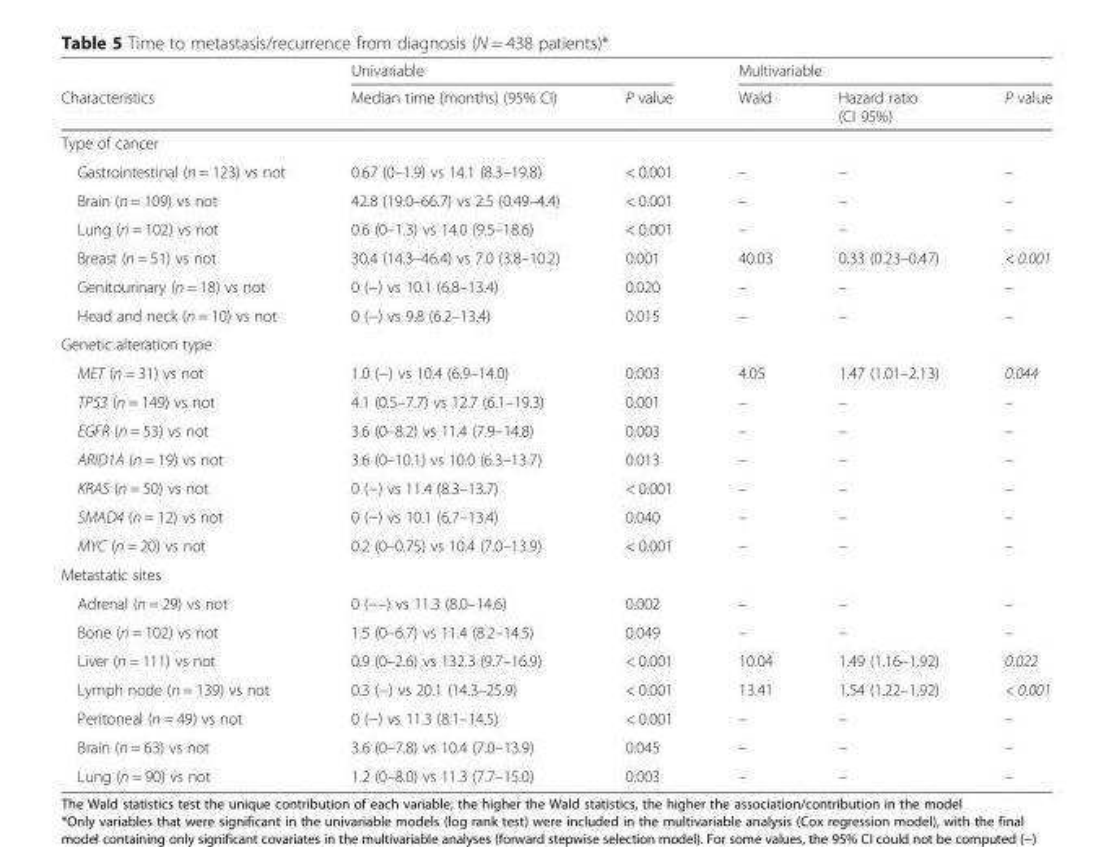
<table><thead><tr><td rowspan="2">Characteristics</td><td colspan="2">Univariable</td><td colspan="3">Multivariable</td></tr><tr><td>Median time (months) (95% CI)</td><td>P value</td><td>Wald</td><td>Hazard ratio (CI 95%)</td><td>P value</td></tr></thead><tbody><tr><td colspan="6">Type of cancer</td></tr><tr><td>Gastrointestinal (n = 123) vs not</td><td>0.67 (0–1.9) vs 14.1 (8.3–19.8)</td><td>&lt; 0.001</td><td>–</td><td>–</td><td>–</td></tr><tr><td>Brain (n = 109) vs not</td><td>42.8 (19.0–66.7) vs 2.5 (0.49–4.4)</td><td>&lt; 0.001</td><td>–</td><td>–</td><td>–</td></tr><tr><td>Lung (n = 102) vs not</td><td>0.6 (0–1.3) vs 14.0 (9.5–18.6)</td><td>&lt; 0.001</td><td>–</td><td>–</td><td>–</td></tr><tr><td>Breast (n = 51) vs not</td><td>30.4 (14.3–46.4) vs 7.0 (3.8–10.2)</td><td>0.001</td><td>40.03</td><td>0.33 (0.23–0.47)</td><td>&lt; 0.001</td></tr><tr><td>Genitourinary (n = 18) vs not</td><td>0 (−) vs 10.1 (6.8–13.4)</td><td>0.020</td><td>–</td><td>–</td><td>–</td></tr><tr><td>Head and neck (n = 10) vs not</td><td>0 (−) vs 9.8 (6.2–13.4)</td><td>0.015</td><td>–</td><td>–</td><td>–</td></tr><tr><td colspan="6">Genetic alteration type</td></tr><tr><td>MET (n = 31) vs not</td><td>1.0 (−) vs 10.4 (6.9–14.0)</td><td>0.003</td><td>4.05</td><td>1.47 (1.01–2.13)</td><td>0.044</td></tr><tr><td>TP53 (n = 149) vs not</td><td>4.1 (0.5–7.7) vs 12.7 (6.1–19.3)</td><td>0.001</td><td>–</td><td>–</td><td>–</td></tr><tr><td>EGFR (n = 53) vs not</td><td>3.6 (0–8.2) vs 11.4 (7.9–14.8)</td><td>0.003</td><td>–</td><td>–</td><td>–</td></tr><tr><td>ARID1A (n = 19) vs not</td><td>3.6 (0–10.1) vs 10.0 (6.3–13.7)</td><td>0.013</td><td>–</td><td>–</td><td>–</td></tr><tr><td>KRAS (n = 50) vs not</td><td>0 (−) vs 11.4 (8.3–13.7)</td><td>&lt; 0.001</td><td>–</td><td>–</td><td>–</td></tr><tr><td>SMAD4 (n = 12) vs not</td><td>0 (−) vs 10.1 (6.7–13.4)</td><td>0.040</td><td>–</td><td>–</td><td>–</td></tr><tr><td>MYC (n = 20) vs not</td><td>0.2 (0–0.75) vs 10.4 (7.0–13.9)</td><td>&lt; 0.001</td><td>–</td><td>–</td><td>–</td></tr><tr><td colspan="6">Metastatic sites</td></tr><tr><td>Adrenal (n = 29) vs not</td><td>0 (−–) vs 11.3 (8.0–14.6)</td><td>0.002</td><td>–</td><td>–</td><td>–</td></tr><tr><td>Bone (n = 102) vs not</td><td>1.5 (0–6.7) vs 11.4 (8.2–14.5)</td><td>0.049</td><td>–</td><td>–</td><td>–</td></tr><tr><td>Liver (n = 111) vs not</td><td>0.9 (0–2.6) vs 132.3 (9.7–16.9)</td><td>&lt; 0.001</td><td>10.04</td><td>1.49 (1.16–1.92)</td><td>0.022</td></tr><tr><td>Lymph node (n = 139) vs not</td><td>0.3 (−) vs 20.1 (14.3–25.9)</td><td>&lt; 0.001</td><td>13.41</td><td>1.54 (1.22–1.92)</td><td>&lt; 0.001</td></tr><tr><td>Peritoneal (n = 49) vs not</td><td>0 (−) vs 11.3 (8.1–14.5)</td><td>&lt; 0.001</td><td>–</td><td>–</td><td>–</td></tr><tr><td>Brain (n = 63) vs not</td><td>3.6 (0–7.8) vs 10.4 (7.0–13.9)</td><td>0.045</td><td>–</td><td>–</td><td>–</td></tr><tr><td>Lung (n = 90) vs not</td><td>1.2 (0–8.0) vs 11.3 (7.7–15.0)</td><td>0.003</td><td>–</td><td>–</td><td>–</td></tr></tbody></table>